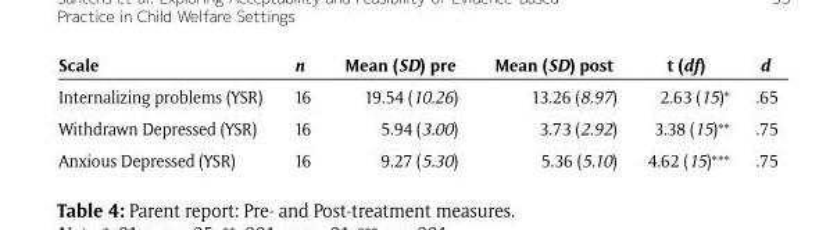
<table><thead><tr><td>Scale</td><td>n</td><td>Mean (SD) pre</td><td>Mean (SD) post</td><td>t (df)</td><td>d</td></tr></thead><tbody><tr><td>Internalizing problems (YSR)</td><td>16</td><td>19.54 (10.26)</td><td>13.26 (8.97)</td><td>2.63 (15)*</td><td>.65</td></tr><tr><td>Withdrawn Depressed (YSR)</td><td>16</td><td>5.94 (3.00)</td><td>3.73 (2.92)</td><td>3.38 (15)**</td><td>.75</td></tr><tr><td>Anxious Depressed (YSR)</td><td>16</td><td>9.27 (5.30)</td><td>5.36 (5.10)</td><td>4.62 (15)***</td><td>.75</td></tr></tbody></table>